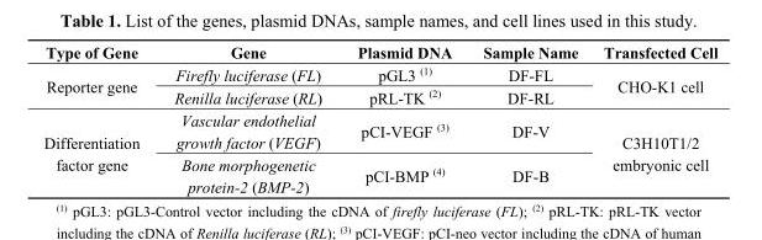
<table><thead><tr><td>Type of Gene</td><td>Gene</td><td>Plasmid DNA</td><td>Sample Name</td><td>Transfected Cell</td></tr></thead><tbody><tr><td rowspan="2">Reporter gene</td><td>Firefly luciferase (FL)</td><td>pGL3 <sup>(1)</sup></td><td>DF-FL</td><td rowspan="2">CHO-K1 cell</td></tr><tr><td>Renilla luciferase (RL)</td><td>pRL-TK <sup>(2)</sup></td><td>DF-RL</td></tr><tr><td rowspan="2">Differentiation factor gene</td><td>Vascular endothelial growth factor (VEGF)</td><td>pCI-VEGF <sup>(3)</sup></td><td>DF-V</td><td rowspan="2">C3H10T1/2 embryonic cell</td></tr><tr><td>Bone morphogenetic protein-2 (BMP-2)</td><td>pCI-BMP <sup>(4)</sup></td><td>DF-B</td></tr></tbody></table>